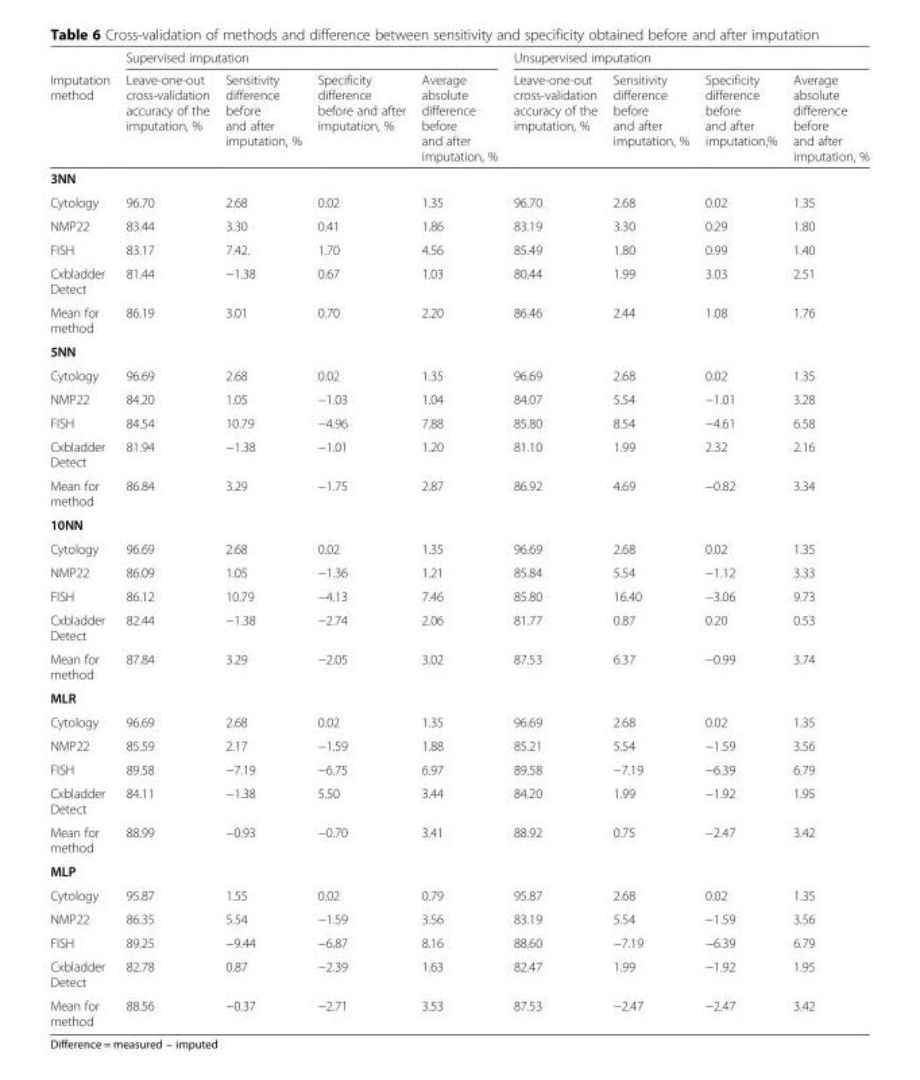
<table><thead><tr><td rowspan="2">Imputation method</td><td colspan="4">Supervised imputation</td><td colspan="4">Unsupervised imputation</td></tr><tr><td>Leave-one-out cross-validation accuracy of the imputation, %</td><td>Sensitivity difference before and after imputation, %</td><td>Specificity difference before and after imputation, %</td><td>Average absolute difference before and after imputation, %</td><td>Leave-one-out cross-validation accuracy of the imputation, %</td><td>Sensitivity difference before and after imputation, %</td><td>Specificity difference before and after imputation,%</td><td>Average absolute difference before and after imputation, %</td></tr></thead><tbody><tr><td colspan="9">3NN</td></tr><tr><td>Cytology</td><td>96.70</td><td>2.68</td><td>0.02</td><td>1.35</td><td>96.70</td><td>2.68</td><td>0.02</td><td>1.35</td></tr><tr><td>NMP22</td><td>83.44</td><td>3.30</td><td>0.41</td><td>1.86</td><td>83.19</td><td>3.30</td><td>0.29</td><td>1.80</td></tr><tr><td>FISH</td><td>83.17</td><td>7.42.</td><td>1.70</td><td>4.56</td><td>85.49</td><td>1.80</td><td>0.99</td><td>1.40</td></tr><tr><td>Cxbladder Detect</td><td>81.44</td><td>−1.38</td><td>0.67</td><td>1.03</td><td>80.44</td><td>1.99</td><td>3.03</td><td>2.51</td></tr><tr><td>Mean for method</td><td>86.19</td><td>3.01</td><td>0.70</td><td>2.20</td><td>86.46</td><td>2.44</td><td>1.08</td><td>1.76</td></tr><tr><td colspan="9">5NN</td></tr><tr><td>Cytology</td><td>96.69</td><td>2.68</td><td>0.02</td><td>1.35</td><td>96.69</td><td>2.68</td><td>0.02</td><td>1.35</td></tr><tr><td>NMP22</td><td>84.20</td><td>1.05</td><td>−1.03</td><td>1.04</td><td>84.07</td><td>5.54</td><td>−1.01</td><td>3.28</td></tr><tr><td>FISH</td><td>84.54</td><td>10.79</td><td>−4.96</td><td>7.88</td><td>85.80</td><td>8.54</td><td>−4.61</td><td>6.58</td></tr><tr><td>Cxbladder Detect</td><td>81.94</td><td>−1.38</td><td>−1.01</td><td>1.20</td><td>81.10</td><td>1.99</td><td>2.32</td><td>2.16</td></tr><tr><td>Mean for method</td><td>86.84</td><td>3.29</td><td>−1.75</td><td>2.87</td><td>86.92</td><td>4.69</td><td>−0.82</td><td>3.34</td></tr><tr><td colspan="9">10NN</td></tr><tr><td>Cytology</td><td>96.69</td><td>2.68</td><td>0.02</td><td>1.35</td><td>96.69</td><td>2.68</td><td>0.02</td><td>1.35</td></tr><tr><td>NMP22</td><td>86.09</td><td>1.05</td><td>−1.36</td><td>1.21</td><td>85.84</td><td>5.54</td><td>−1.12</td><td>3.33</td></tr><tr><td>FISH</td><td>86.12</td><td>10.79</td><td>−4.13</td><td>7.46</td><td>85.80</td><td>16.40</td><td>−3.06</td><td>9.73</td></tr><tr><td>Cxbladder Detect</td><td>82.44</td><td>−1.38</td><td>−2.74</td><td>2.06</td><td>81.77</td><td>0.87</td><td>0.20</td><td>0.53</td></tr><tr><td>Mean for method</td><td>87.84</td><td>3.29</td><td>−2.05</td><td>3.02</td><td>87.53</td><td>6.37</td><td>−0.99</td><td>3.74</td></tr><tr><td colspan="9">MLR</td></tr><tr><td>Cytology</td><td>96.69</td><td>2.68</td><td>0.02</td><td>1.35</td><td>96.69</td><td>2.68</td><td>0.02</td><td>1.35</td></tr><tr><td>NMP22</td><td>85.59</td><td>2.17</td><td>−1.59</td><td>1.88</td><td>85.21</td><td>5.54</td><td>−1.59</td><td>3.56</td></tr><tr><td>FISH</td><td>89.58</td><td>−7.19</td><td>−6.75</td><td>6.97</td><td>89.58</td><td>−7.19</td><td>−6.39</td><td>6.79</td></tr><tr><td>Cxbladder Detect</td><td>84.11</td><td>−1.38</td><td>5.50</td><td>3.44</td><td>84.20</td><td>1.99</td><td>−1.92</td><td>1.95</td></tr><tr><td>Mean for method</td><td>88.99</td><td>−0.93</td><td>−0.70</td><td>3.41</td><td>88.92</td><td>0.75</td><td>−2.47</td><td>3.42</td></tr><tr><td colspan="9">MLP</td></tr><tr><td>Cytology</td><td>95.87</td><td>1.55</td><td>0.02</td><td>0.79</td><td>95.87</td><td>2.68</td><td>0.02</td><td>1.35</td></tr><tr><td>NMP22</td><td>86.35</td><td>5.54</td><td>−1.59</td><td>3.56</td><td>83.19</td><td>5.54</td><td>−1.59</td><td>3.56</td></tr><tr><td>FISH</td><td>89.25</td><td>−9.44</td><td>−6.87</td><td>8.16</td><td>88.60</td><td>−7.19</td><td>−6.39</td><td>6.79</td></tr><tr><td>Cxbladder Detect</td><td>82.78</td><td>0.87</td><td>−2.39</td><td>1.63</td><td>82.47</td><td>1.99</td><td>−1.92</td><td>1.95</td></tr><tr><td>Mean for method</td><td>88.56</td><td>−0.37</td><td>−2.71</td><td>3.53</td><td>87.53</td><td>−2.47</td><td>−2.47</td><td>3.42</td></tr></tbody></table>